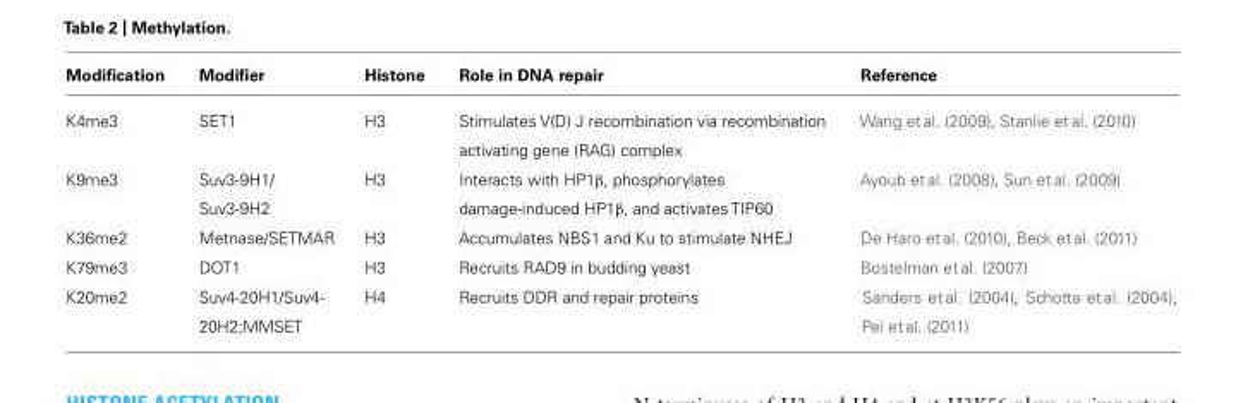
<table><thead><tr><td>Modification</td><td>Modifier</td><td>Histone</td><td>Role in DNA repair</td><td>Reference</td></tr></thead><tbody><tr><td>K4me3</td><td>SET1</td><td>H3</td><td>Stimulates V(D) J recombination via recombination activating gene (RAG) complex</td><td>Wang et al. (2009), Stanlie et al. (2010)</td></tr><tr><td>K9me3</td><td>Suv3-9H1/ Suv3-9H2</td><td>H3</td><td>Interacts with HP1β, phosphorylates damage-induced HP1β, and activates TIP60</td><td>Ayoub et al. (2008), Sun et al. (2009)</td></tr><tr><td>K36me2</td><td>Metnase/SETMAR</td><td>H3</td><td>Accumulates NBS1 and Ku to stimulate NHEJ</td><td>De Haro et al. (2010), Beck et al. (2011)</td></tr><tr><td>K79me3</td><td>DOT1</td><td>H3</td><td>Recruits RAD9 in budding yeast</td><td>Bostelman et al. (2007)</td></tr><tr><td>K20me2</td><td>Suv4-20H1/Suv4- 20H2;MMSET</td><td>H4</td><td>Recruits DDR and repair proteins</td><td>Sanders et al. (2004), Schotta et al. (2004), Pei et al. (2011)</td></tr></tbody></table>